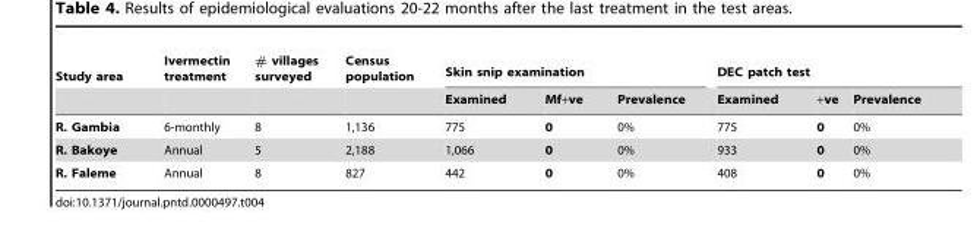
<table><thead><tr><td rowspan="2">Study area</td><td rowspan="2">Ivermectin treatment</td><td rowspan="2"># villages surveyed</td><td rowspan="2">Census population</td><td colspan="3">Skin snip examination</td><td colspan="3">DEC patch test</td></tr><tr><td>Examined</td><td>Mf+ve</td><td>Prevalence</td><td>Examined</td><td>+ve</td><td>Prevalence</td></tr></thead><tbody><tr><td>R. Gambia</td><td>6-monthly</td><td>8</td><td>1,136</td><td>775</td><td>0</td><td>0%</td><td>775</td><td>0</td><td>0%</td></tr><tr><td>R. Bakoye</td><td>Annual</td><td>5</td><td>2,188</td><td>1,066</td><td>0</td><td>0%</td><td>933</td><td>0</td><td>0%</td></tr><tr><td>R. Faleme</td><td>Annual</td><td>8</td><td>827</td><td>442</td><td>0</td><td>0%</td><td>408</td><td>0</td><td>0%</td></tr></tbody></table>